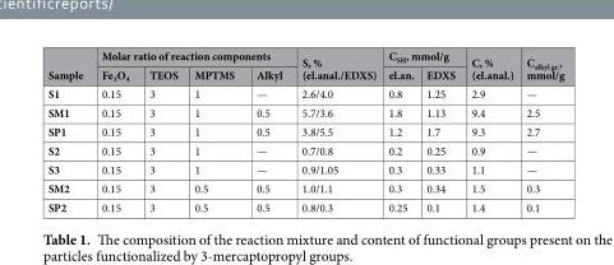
<table><thead><tr><td rowspan="2">Sample</td><td colspan="4">Molar ratio of reaction components</td><td rowspan="2">S, % (el.anal./EDXS)</td><td colspan="2">C<sub>SH</sub>, mmol/g</td><td rowspan="2">C, % (el.anal.)</td><td rowspan="2">C<sub>alkyl gr.</sub>, mmol/g</td></tr><tr><td>Fe<sub>3</sub>O<sub>4</sub></td><td>TEOS</td><td>MPTMS</td><td>Alkyl</td><td>el.an.</td><td>EDXS</td></tr></thead><tbody><tr><td>S1</td><td>0.15</td><td>3</td><td>1</td><td>—</td><td>2.6/4.0</td><td>0.8</td><td>1.25</td><td>2.9</td><td>—</td></tr><tr><td>SM1</td><td>0.15</td><td>3</td><td>1</td><td>0.5</td><td>5.7/3.6</td><td>1.8</td><td>1.13</td><td>9.4</td><td>2.5</td></tr><tr><td>SP1</td><td>0.15</td><td>3</td><td>1</td><td>0.5</td><td>3.8/5.5</td><td>1.2</td><td>1.7</td><td>9.3</td><td>2.7</td></tr><tr><td>S2</td><td>0.15</td><td>3</td><td>1</td><td>—</td><td>0.7/0.8</td><td>0.2</td><td>0.25</td><td>0.9</td><td>—</td></tr><tr><td>S3</td><td>0.15</td><td>3</td><td>1</td><td>—</td><td>0.9/1.05</td><td>0.3</td><td>0.33</td><td>1.1</td><td>—</td></tr><tr><td>SM2</td><td>0.15</td><td>3</td><td>0.5</td><td>0.5</td><td>1.0/1.1</td><td>0.3</td><td>0.34</td><td>1.5</td><td>0.3</td></tr><tr><td>SP2</td><td>0.15</td><td>3</td><td>0.5</td><td>0.5</td><td>0.8/0.3</td><td>0.25</td><td>0.1</td><td>1.4</td><td>0.1</td></tr></tbody></table>